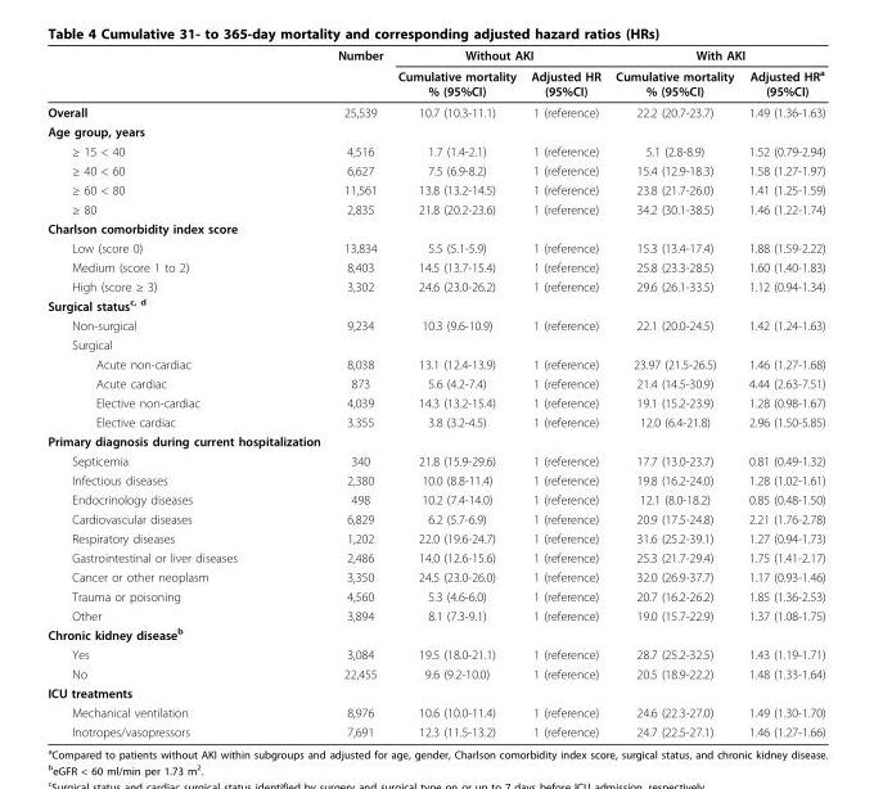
<table><thead><tr><td rowspan="2"></td><td rowspan="2">Number</td><td colspan="2">Without AKI</td><td colspan="2">With AKI</td></tr><tr><td>Cumulative mortality % (95%CI)</td><td>Adjusted HR (95%CI)</td><td>Cumulative mortality % (95%CI)</td><td>Adjusted HR<sup>a</sup> (95%CI)</td></tr></thead><tbody><tr><td>Overall</td><td>25,539</td><td>10.7 (10.3-11.1)</td><td>1 (reference)</td><td>22.2 (20.7-23.7)</td><td>1.49 (1.36-1.63)</td></tr><tr><td colspan="6">Age group, years</td></tr><tr><td>≥ 15 &lt; 40</td><td>4,516</td><td>1.7 (1.4-2.1)</td><td>1 (reference)</td><td>5.1 (2.8-8.9)</td><td>1.52 (0.79-2.94)</td></tr><tr><td>≥ 40 &lt; 60</td><td>6,627</td><td>7.5 (6.9-8.2)</td><td>1 (reference)</td><td>15.4 (12.9-18.3)</td><td>1.58 (1.27-1.97)</td></tr><tr><td>≥ 60 &lt; 80</td><td>11,561</td><td>13.8 (13.2-14.5)</td><td>1 (reference)</td><td>23.8 (21.7-26.0)</td><td>1.41 (1.25-1.59)</td></tr><tr><td>≥ 80</td><td>2,835</td><td>21.8 (20.2-23.6)</td><td>1 (reference)</td><td>34.2 (30.1-38.5)</td><td>1.46 (1.22-1.74)</td></tr><tr><td colspan="6">Charlson comorbidity index score</td></tr><tr><td>Low (score 0)</td><td>13,834</td><td>5.5 (5.1-5.9)</td><td>1 (reference)</td><td>15.3 (13.4-17.4)</td><td>1.88 (1.59-2.22)</td></tr><tr><td>Medium (score 1 to 2)</td><td>8,403</td><td>14.5 (13.7-15.4)</td><td>1 (reference)</td><td>25.8 (23.3-28.5)</td><td>1.60 (1.40-1.83)</td></tr><tr><td>High (score ≥ 3)</td><td>3,302</td><td>24.6 (23.0-26.2)</td><td>1 (reference)</td><td>29.6 (26.1-33.5)</td><td>1.12 (0.94-1.34)</td></tr><tr><td colspan="6">Surgical status<sup>c, d</sup></td></tr><tr><td>Non-surgical</td><td>9,234</td><td>10.3 (9.6-10.9)</td><td>1 (reference)</td><td>22.1 (20.0-24.5)</td><td>1.42 (1.24-1.63)</td></tr><tr><td colspan="6">Surgical</td></tr><tr><td>Acute non-cardiac</td><td>8,038</td><td>13.1 (12.4-13.9)</td><td>1 (reference)</td><td>23.97 (21.5-26.5)</td><td>1.46 (1.27-1.68)</td></tr><tr><td>Acute cardiac</td><td>873</td><td>5.6 (4.2-7.4)</td><td>1 (reference)</td><td>21.4 (14.5-30.9)</td><td>4.44 (2.63-7.51)</td></tr><tr><td>Elective non-cardiac</td><td>4,039</td><td>14.3 (13.2-15.4)</td><td>1 (reference)</td><td>19.1 (15.2-23.9)</td><td>1.28 (0.98-1.67)</td></tr><tr><td>Elective cardiac</td><td>3.355</td><td>3.8 (3.2-4.5)</td><td>1 (reference)</td><td>12.0 (6.4-21.8)</td><td>2.96 (1.50-5.85)</td></tr><tr><td colspan="6">Primary diagnosis during current hospitalization</td></tr><tr><td>Septicemia</td><td>340</td><td>21.8 (15.9-29.6)</td><td>1 (reference)</td><td>17.7 (13.0-23.7)</td><td>0.81 (0.49-1.32)</td></tr><tr><td>Infectious diseases</td><td>2,380</td><td>10.0 (8.8-11.4)</td><td>1 (reference)</td><td>19.8 (16.2-24.0)</td><td>1.28 (1.02-1.61)</td></tr><tr><td>Endocrinology diseases</td><td>498</td><td>10.2 (7.4-14.0)</td><td>1 (reference)</td><td>12.1 (8.0-18.2)</td><td>0.85 (0.48-1.50)</td></tr><tr><td>Cardiovascular diseases</td><td>6,829</td><td>6.2 (5.7-6.9)</td><td>1 (reference)</td><td>20.9 (17.5-24.8)</td><td>2.21 (1.76-2.78)</td></tr><tr><td>Respiratory diseases</td><td>1,202</td><td>22.0 (19.6-24.7)</td><td>1 (reference)</td><td>31.6 (25.2-39.1)</td><td>1.27 (0.94-1.73)</td></tr><tr><td>Gastrointestinal or liver diseases</td><td>2,486</td><td>14.0 (12.6-15.6)</td><td>1 (reference)</td><td>25.3 (21.7-29.4)</td><td>1.75 (1.41-2.17)</td></tr><tr><td>Cancer or other neoplasm</td><td>3,350</td><td>24.5 (23.0-26.0)</td><td>1 (reference)</td><td>32.0 (26.9-37.7)</td><td>1.17 (0.93-1.46)</td></tr><tr><td>Trauma or poisoning</td><td>4,560</td><td>5.3 (4.6-6.0)</td><td>1 (reference)</td><td>20.7 (16.2-26.2)</td><td>1.85 (1.36-2.53)</td></tr><tr><td>Other</td><td>3,894</td><td>8.1 (7.3-9.1)</td><td>1 (reference)</td><td>19.0 (15.7-22.9)</td><td>1.37 (1.08-1.75)</td></tr><tr><td colspan="6">Chronic kidney disease<sup>b</sup></td></tr><tr><td>Yes</td><td>3,084</td><td>19.5 (18.0-21.1)</td><td>1 (reference)</td><td>28.7 (25.2-32.5)</td><td>1.43 (1.19-1.71)</td></tr><tr><td>No</td><td>22,455</td><td>9.6 (9.2-10.0)</td><td>1 (reference)</td><td>20.5 (18.9-22.2)</td><td>1.48 (1.33-1.64)</td></tr><tr><td colspan="6">ICU treatments</td></tr><tr><td>Mechanical ventilation</td><td>8,976</td><td>10.6 (10.0-11.4)</td><td>1 (reference)</td><td>24.6 (22.3-27.0)</td><td>1.49 (1.30-1.70)</td></tr><tr><td>Inotropes/vasopressors</td><td>7,691</td><td>12.3 (11.5-13.2)</td><td>1 (reference)</td><td>24.7 (22.5-27.1)</td><td>1.46 (1.27-1.66)</td></tr></tbody></table>